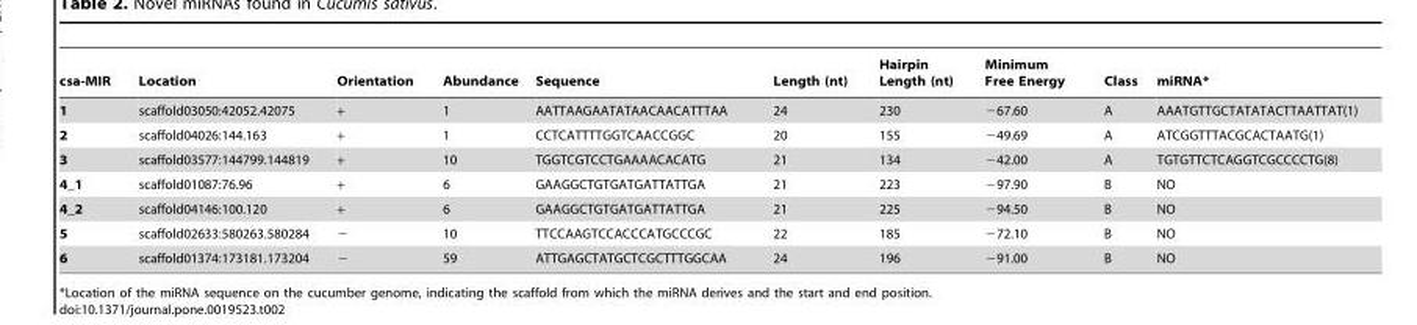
<table><thead><tr><td>csa-MIR</td><td>Location</td><td>Orientation</td><td>Abundance</td><td>Sequence</td><td>Length (nt)</td><td>Hairpin Length (nt)</td><td>Minimum Free Energy</td><td>Class</td><td>miRNA*</td></tr></thead><tbody><tr><td>1</td><td>scaffold03050:42052.42075</td><td>+</td><td>1</td><td>AATTAAGAATATAACAACATTTAA</td><td>24</td><td>230</td><td>−67.60</td><td>A</td><td>AAATGTTGCTATATACTTAATTAT(1)</td></tr><tr><td>2</td><td>scaffold04026:144.163</td><td>+</td><td>1</td><td>CCTCATTTTGGTCAACCGGC</td><td>20</td><td>155</td><td>−49.69</td><td>A</td><td>ATCGGTTTACGCACTAATG(1)</td></tr><tr><td>3</td><td>scaffold03577:144799.144819</td><td>+</td><td>10</td><td>TGGTCGTCCTGAAAACACATG</td><td>21</td><td>134</td><td>−42.00</td><td>A</td><td>TGTGTTCTCAGGTCGCCCCTG(8)</td></tr><tr><td>4_1</td><td>scaffold01087:76.96</td><td>+</td><td>6</td><td>GAAGGCTGTGATGATTATTGA</td><td>21</td><td>223</td><td>−97.90</td><td>B</td><td>NO</td></tr><tr><td>4_2</td><td>scaffold04146:100.120</td><td>+</td><td>6</td><td>GAAGGCTGTGATGATTATTGA</td><td>21</td><td>225</td><td>−94.50</td><td>B</td><td>NO</td></tr><tr><td>5</td><td>scaffold02633:580263.580284</td><td>−</td><td>10</td><td>TTCCAAGTCCACCCATGCCCGC</td><td>22</td><td>185</td><td>−72.10</td><td>B</td><td>NO</td></tr><tr><td>6</td><td>scaffold01374:173181.173204</td><td>−</td><td>59</td><td>ATTGAGCTATGCTCGCTTTGGCAA</td><td>24</td><td>196</td><td>−91.00</td><td>B</td><td>NO</td></tr></tbody></table>